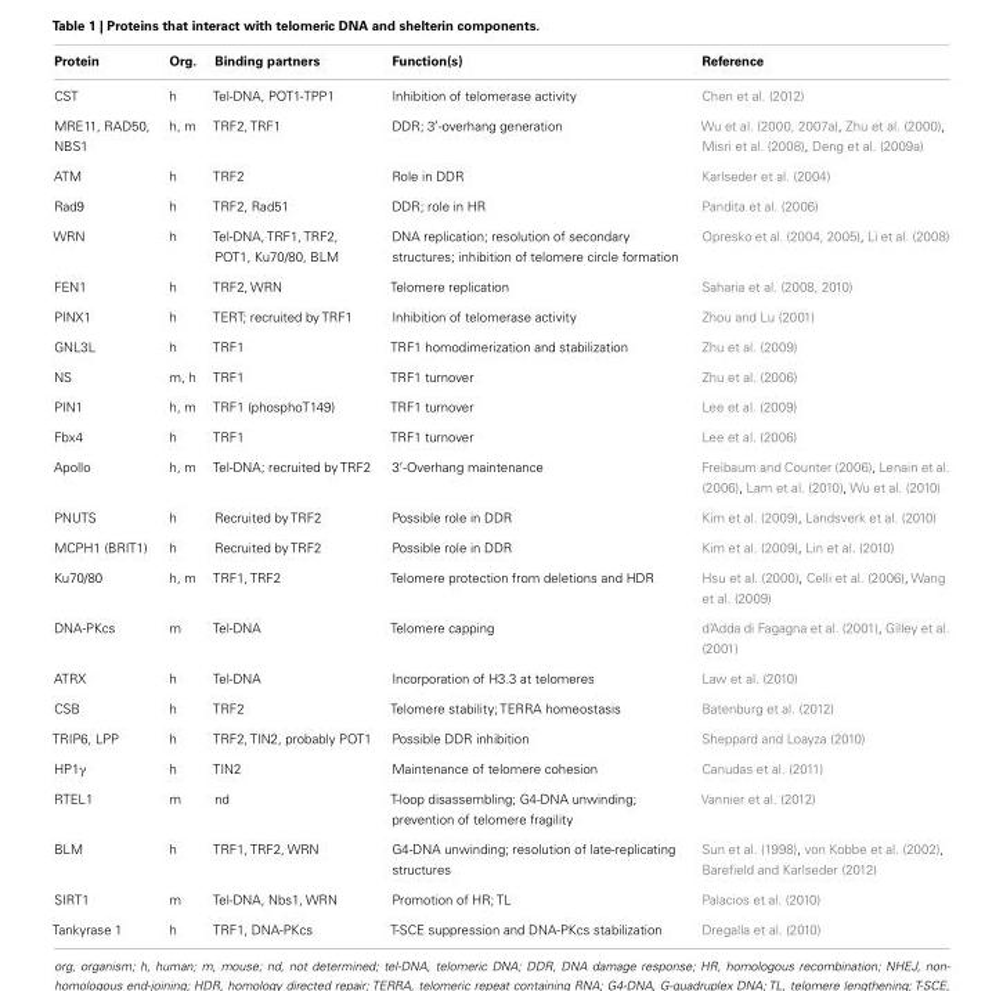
<table><thead><tr><td>Protein</td><td>Org.</td><td>Binding partners</td><td>Function(s)</td><td>Reference</td></tr></thead><tbody><tr><td>CST</td><td>h</td><td>Tel-DNA, POT1-TPP1</td><td>Inhibition of telomerase activity</td><td>Chen et al. (2012)</td></tr><tr><td>MRE11, RAD50, NBS1</td><td>h, m</td><td>TRF2, TRF1</td><td>DDR; 3′-overhang generation</td><td>Wu et al. (2000, 2007a), Zhu et al. (2000), Misri et al. (2008), Deng et al. (2009a)</td></tr><tr><td>ATM</td><td>h</td><td>TRF2</td><td>Role in DDR</td><td>Karlseder et al. (2004)</td></tr><tr><td>Rad9</td><td>h</td><td>TRF2, Rad51</td><td>DDR; role in HR</td><td>Pandita et al. (2006)</td></tr><tr><td>WRN</td><td>h</td><td>Tel-DNA, TRF1, TRF2, POT1, Ku70/80, BLM</td><td>DNA replication; resolution of secondary structures; inhibition of telomere circle formation</td><td>Opresko et al. (2004, 2005), Li et al. (2008)</td></tr><tr><td>FEN1</td><td>h</td><td>TRF2, WRN</td><td>Telomere replication</td><td>Saharia et al. (2008, 2010)</td></tr><tr><td>PINX1</td><td>h</td><td>TERT; recruited by TRF1</td><td>Inhibition of telomerase activity</td><td>Zhou and Lu (2001)</td></tr><tr><td>GNL3L</td><td>h</td><td>TRF1</td><td>TRF1 homodimerization and stabilization</td><td>Zhu et al. (2009)</td></tr><tr><td>NS</td><td>m, h</td><td>TRF1</td><td>TRF1 turnover</td><td>Zhu et al. (2006)</td></tr><tr><td>PIN1</td><td>h, m</td><td>TRF1 (phosphoT149)</td><td>TRF1 turnover</td><td>Lee et al. (2009)</td></tr><tr><td>Fbx4</td><td>h</td><td>TRF1</td><td>TRF1 turnover</td><td>Lee et al. (2006)</td></tr><tr><td>Apollo</td><td>h, m</td><td>Tel-DNA; recruited by TRF2</td><td>3′-Overhang maintenance</td><td>Freibaum and Counter (2006), Lenain et al. (2006), Lam et al. (2010), Wu et al. (2010)</td></tr><tr><td>PNUTS</td><td>h</td><td>Recruited by TRF2</td><td>Possible role in DDR</td><td>Kim et al. (2009), Landsverk et al. (2010)</td></tr><tr><td>MCPH1 (BRIT1)</td><td>h</td><td>Recruited by TRF2</td><td>Possible role in DDR</td><td>Kim et al. (2009), Lin et al. (2010)</td></tr><tr><td>Ku70/80</td><td>h, m</td><td>TRF1, TRF2</td><td>Telomere protection from deletions and HDR</td><td>Hsu et al. (2000), Celli et al. (2006), Wang et al. (2009)</td></tr><tr><td>DNA-PKcs</td><td>m</td><td>Tel-DNA</td><td>Telomere capping</td><td>d’Adda di Fagagna et al. (2001), Gilley et al. (2001)</td></tr><tr><td>ATRX</td><td>h</td><td>Tel-DNA</td><td>Incorporation of H3.3 at telomeres</td><td>Law et al. (2010)</td></tr><tr><td>CSB</td><td>h</td><td>TRF2</td><td>Telomere stability; TERRA homeostasis</td><td>Batenburg et al. (2012)</td></tr><tr><td>TRIP6, LPP</td><td>h</td><td>TRF2, TIN2, probably POT1</td><td>Possible DDR inhibition</td><td>Sheppard and Loayza (2010)</td></tr><tr><td>HP1γ</td><td>h</td><td>TIN2</td><td>Maintenance of telomere cohesion</td><td>Canudas et al. (2011)</td></tr><tr><td>RTEL1</td><td>m</td><td>nd</td><td>T-loop disassembling; G4-DNA unwinding; prevention of telomere fragility</td><td>Vannier et al. (2012)</td></tr><tr><td>BLM</td><td>h</td><td>TRF1, TRF2, WRN</td><td>G4-DNA unwinding; resolution of late-replicating structures</td><td>Sun et al. (1998), von Kobbe et al. (2002), Barefield and Karlseder (2012)</td></tr><tr><td>SIRT1</td><td>m</td><td>Tel-DNA, Nbs1, WRN</td><td>Promotion of HR; TL</td><td>Palacios et al. (2010)</td></tr><tr><td>Tankyrase 1</td><td>h</td><td>TRF1, DNA-PKcs</td><td>T-SCE suppression and DNA-PKcs stabilization</td><td>Dregalla et al. (2010)</td></tr></tbody></table>